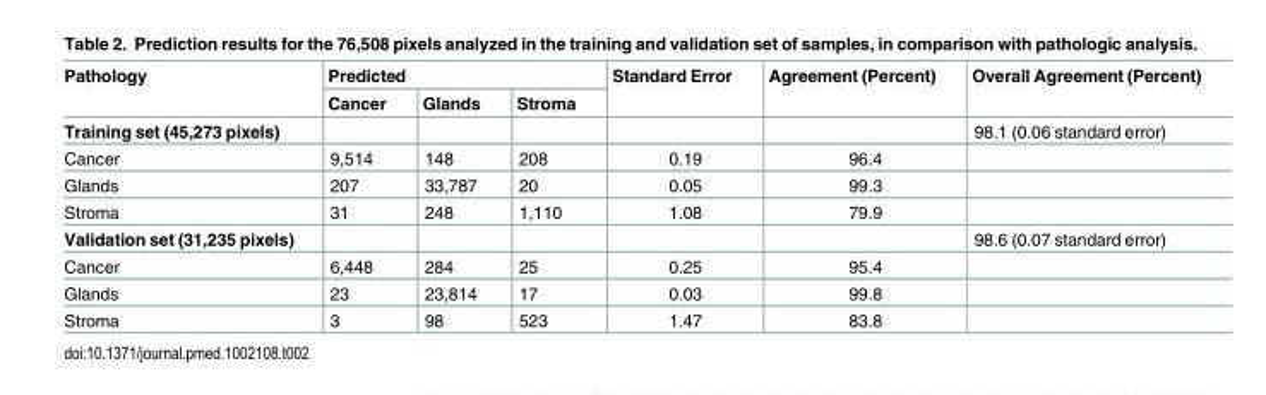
<table><thead><tr><td rowspan="2">Pathology</td><td colspan="3">Predicted</td><td rowspan="2">Standard Error</td><td rowspan="2">Agreement (Percent)</td><td rowspan="2">Overall Agreement (Percent)</td></tr><tr><td>Cancer</td><td>Glands</td><td>Stroma</td></tr></thead><tbody><tr><td>Training set (45,273 pixels)</td><td></td><td></td><td></td><td></td><td></td><td>98.1 (0.06 standard error)</td></tr><tr><td>Cancer</td><td>9,514</td><td>148</td><td>208</td><td>0.19</td><td>96.4</td><td></td></tr><tr><td>Glands</td><td>207</td><td>33,787</td><td>20</td><td>0.05</td><td>99.3</td><td></td></tr><tr><td>Stroma</td><td>31</td><td>248</td><td>1,110</td><td>1.08</td><td>79.9</td><td></td></tr><tr><td>Validation set (31,235 pixels)</td><td></td><td></td><td></td><td></td><td></td><td>98.6 (0.07 standard error)</td></tr><tr><td>Cancer</td><td>6,448</td><td>284</td><td>25</td><td>0.25</td><td>95.4</td><td></td></tr><tr><td>Glands</td><td>23</td><td>23,814</td><td>17</td><td>0.03</td><td>99.8</td><td></td></tr><tr><td>Stroma</td><td>3</td><td>98</td><td>523</td><td>1.47</td><td>83.8</td><td></td></tr></tbody></table>